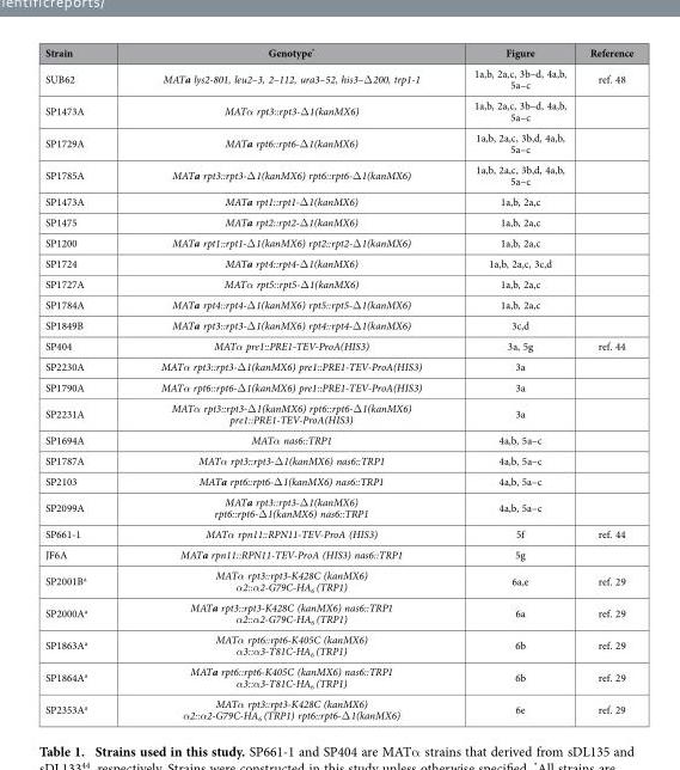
<table><thead><tr><td>Strain</td><td>Genotype*</td><td>Figure</td><td>Reference</td></tr></thead><tbody><tr><td>SUB62</td><td>MATa lys2-801, leu2–3, 2–112, ura3–52, his3–Δ 200, trp1-1</td><td>1a,b, 2a,c, 3b–d, 4a,b, 5a–c</td><td>ref. 48</td></tr><tr><td>SP1473A</td><td>MATα rpt3::rpt3-Δ 1(kanMX6)</td><td>1a,b, 2a,c, 3b–d, 4a,b, 5a–c</td><td></td></tr><tr><td>SP1729A</td><td>MATa rpt6::rpt6-Δ 1(kanMX6)</td><td>1a,b, 2a,c, 3b,d, 4a,b, 5a–c</td><td></td></tr><tr><td>SP1785A</td><td>MATa rpt3::rpt3-Δ 1(kanMX6) rpt6::rpt6-Δ 1(kanMX6)</td><td>1a,b, 2a,c, 3b,d, 4a,b, 5a–c</td><td></td></tr><tr><td>SP1473A</td><td>MATa rpt1::rpt1-Δ 1(kanMX6)</td><td>1a,b, 2a,c</td><td></td></tr><tr><td>SP1475</td><td>MATa rpt2::rpt2-Δ 1(kanMX6)</td><td>1a,b, 2a,c</td><td></td></tr><tr><td>SP1200</td><td>MATa rpt1::rpt1-Δ 1(kanMX6) rpt2::rpt2-Δ 1(kanMX6)</td><td>1a,b, 2a,c</td><td></td></tr><tr><td>SP1724</td><td>MATa rpt4::rpt4-Δ 1(kanMX6)</td><td>1a,b, 2a,c, 3c,d</td><td></td></tr><tr><td>SP1727A</td><td>MATα rpt5::rpt5-Δ 1(kanMX6)</td><td>1a,b, 2a,c</td><td></td></tr><tr><td>SP1784A</td><td>MATa rpt4::rpt4-Δ 1(kanMX6) rpt5::rpt5-Δ 1(kanMX6)</td><td>1a,b, 2a,c</td><td></td></tr><tr><td>SP1849B</td><td>MATa rpt3::rpt3-Δ 1(kanMX6) rpt4::rpt4-Δ 1(kanMX6)</td><td>3c,d</td><td></td></tr><tr><td>SP404</td><td>MATα pre1::PRE1-TEV-ProA(HIS3)</td><td>3a, 5g</td><td>ref. 44</td></tr><tr><td>SP2230A</td><td>MATα rpt3::rpt3-Δ 1(kanMX6) pre1::PRE1-TEV-ProA(HIS3)</td><td>3a</td><td></td></tr><tr><td>SP1790A</td><td>MATα rpt6::rpt6-Δ 1(kanMX6) pre1::PRE1-TEV-ProA(HIS3)</td><td>3a</td><td></td></tr><tr><td>SP2231A</td><td>MATα rpt3::rpt3-Δ 1(kanMX6) rpt6::rpt6-Δ 1(kanMX6) pre1::PRE1-TEV-ProA(HIS3)</td><td>3a</td><td></td></tr><tr><td>SP1694A</td><td>MATα nas6::TRP1</td><td>4a,b, 5a–c</td><td></td></tr><tr><td>SP1787A</td><td>MATα rpt3::rpt3-Δ 1(kanMX6) nas6::TRP1</td><td>4a,b, 5a–c</td><td></td></tr><tr><td>SP2103</td><td>MATa rpt6::rpt6-Δ 1(kanMX6) nas6::TRP1</td><td>4a,b, 5a–c</td><td></td></tr><tr><td>SP2099A</td><td>MATa rpt3::rpt3-Δ 1(kanMX6) rpt6::rpt6-Δ 1(kanMX6) nas6::TRP1</td><td>4a,b, 5a–c</td><td></td></tr><tr><td>SP661-1</td><td>MATα rpn11::RPN11-TEV-ProA (HIS3)</td><td>5f</td><td>ref. 44</td></tr><tr><td>JF6A</td><td>MATa rpn11::RPN11-TEV-ProA (HIS3) nas6::TRP1</td><td>5g</td><td></td></tr><tr><td>SP2001B<sup>a</sup></td><td>MATα rpt3::rpt3-K428C (kanMX6) α2::α2-G79C-HA<sub>6</sub> (TRP1)</td><td>6a,e</td><td>ref. 29</td></tr><tr><td>SP2000A<sup>a</sup></td><td>MATa rpt3::rpt3-K428C (kanMX6) nas6::TRP1 α2::α2-G79C-HA<sub>6</sub> (TRP1)</td><td>6a</td><td>ref. 29</td></tr><tr><td>SP1863A<sup>a</sup></td><td>MATα rpt6::rpt6-K405C (kanMX6) α3::α3-T81C-HA<sub>6</sub> (TRP1)</td><td>6b</td><td>ref. 29</td></tr><tr><td>SP1864A<sup>a</sup></td><td>MATa rpt6::rpt6-K405C (kanMX6) nas6::TRP1 α3::α3-T81C-HA<sub>6</sub> (TRP1)</td><td>6b</td><td>ref. 29</td></tr><tr><td>SP2353A<sup>a</sup></td><td>MATα rpt3::rpt3-K428C (kanMX6) α2::α2-G79C-HA<sub>6</sub> (TRP1) rpt6::rpt6-Δ 1(kanMX6)</td><td>6e</td><td>ref. 29</td></tr></tbody></table>